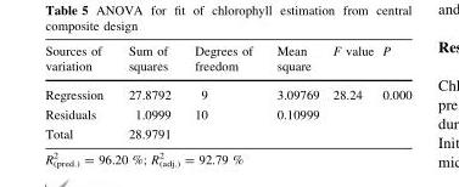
<table><thead><tr><td>Sources of variation</td><td>Sum of squares</td><td>Degrees of freedom</td><td>Mean square</td><td>F value</td><td>P</td></tr></thead><tbody><tr><td>Regression</td><td>27.8792</td><td>9</td><td>3.09769</td><td>28.24</td><td>0.000</td></tr><tr><td>Residuals</td><td>1.0999</td><td>10</td><td>0.10999</td><td></td><td></td></tr><tr><td>Total</td><td>28.9791</td><td></td><td></td><td></td><td></td></tr></tbody></table>